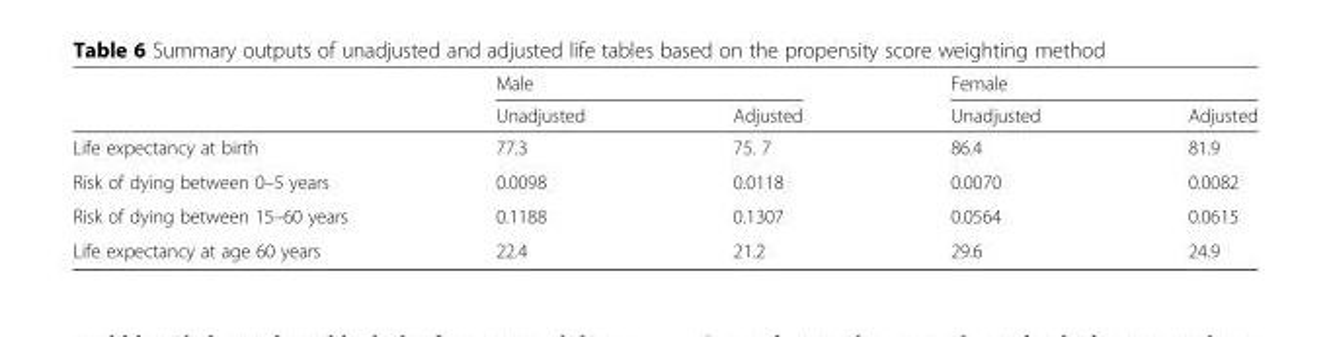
<table><thead><tr><td rowspan="2"></td><td colspan="2">Male</td><td colspan="2">Female</td></tr><tr><td>Unadjusted</td><td>Adjusted</td><td>Unadjusted</td><td>Adjusted</td></tr></thead><tbody><tr><td>Life expectancy at birth</td><td>77.3</td><td>75. 7</td><td>86.4</td><td>81.9</td></tr><tr><td>Risk of dying between 0–5 years</td><td>0.0098</td><td>0.0118</td><td>0.0070</td><td>0.0082</td></tr><tr><td>Risk of dying between 15–60 years</td><td>0.1188</td><td>0.1307</td><td>0.0564</td><td>0.0615</td></tr><tr><td>Life expectancy at age 60 years</td><td>22.4</td><td>21.2</td><td>29.6</td><td>24.9</td></tr></tbody></table>